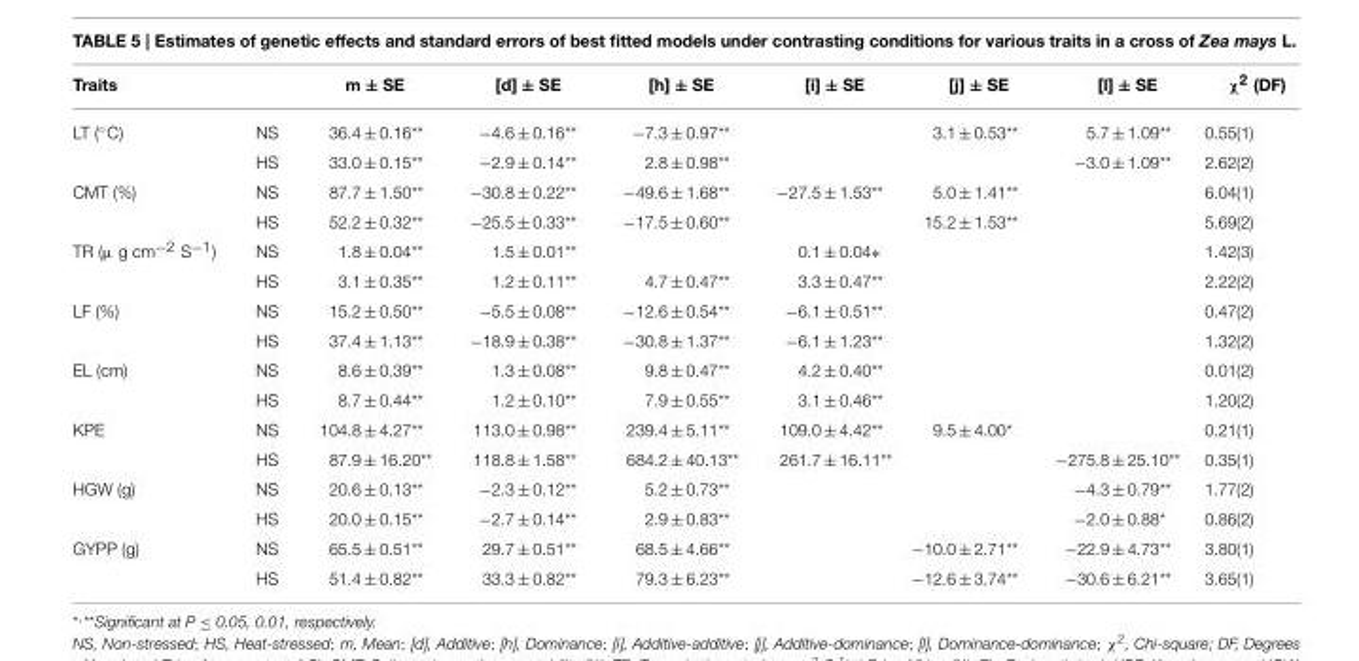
<table><thead><tr><td>Traits</td><td></td><td>m ± SE</td><td>[d] ± SE</td><td>[h] ± SE</td><td>[i] ± SE</td><td>[j] ± SE</td><td>[l] ± SE</td><td>χ<sup>2</sup> (DF)</td></tr></thead><tbody><tr><td rowspan="2">LT (◦C)</td><td>NS</td><td>36.4 ± 0.16**</td><td>−4.6 ± 0.16**</td><td>−7.3 ± 0.97**</td><td></td><td>3.1 ± 0.53**</td><td>5.7 ± 1.09**</td><td>0.55(1)</td></tr><tr><td>HS</td><td>33.0 ± 0.15**</td><td>−2.9 ± 0.14**</td><td>2.8 ± 0.98**</td><td></td><td></td><td>−3.0 ± 1.09**</td><td>2.62(2)</td></tr><tr><td rowspan="2">CMT (%)</td><td>NS</td><td>87.7 ± 1.50**</td><td>−30.8 ± 0.22**</td><td>−49.6 ± 1.68**</td><td>−27.5 ± 1.53**</td><td>5.0 ± 1.41**</td><td></td><td>6.04(1)</td></tr><tr><td>HS</td><td>52.2 ± 0.32**</td><td>−25.5 ± 0.33**</td><td>−17.5 ± 0.60**</td><td></td><td>15.2 ± 1.53**</td><td></td><td>5.69(2)</td></tr><tr><td rowspan="2">TR (µ g cm<sup>−2</sup> S<sup>−1</sup>)</td><td>NS</td><td>1.8 ± 0.04**</td><td>1.5 ± 0.01**</td><td></td><td>0.1 ± 0.04∗</td><td></td><td></td><td>1.42(3)</td></tr><tr><td>HS</td><td>3.1 ± 0.35**</td><td>1.2 ± 0.11**</td><td>4.7 ± 0.47**</td><td>3.3 ± 0.47**</td><td></td><td></td><td>2.22(2)</td></tr><tr><td rowspan="2">LF (%)</td><td>NS</td><td>15.2 ± 0.50**</td><td>−5.5 ± 0.08**</td><td>−12.6 ± 0.54**</td><td>−6.1 ± 0.51**</td><td></td><td></td><td>0.47(2)</td></tr><tr><td>HS</td><td>37.4 ± 1.13**</td><td>−18.9 ± 0.38**</td><td>−30.8 ± 1.37**</td><td>−6.1 ± 1.23**</td><td></td><td></td><td>1.32(2)</td></tr><tr><td rowspan="2">EL (cm)</td><td>NS</td><td>8.6 ± 0.39**</td><td>1.3 ± 0.08**</td><td>9.8 ± 0.47**</td><td>4.2 ± 0.40**</td><td></td><td></td><td>0.01(2)</td></tr><tr><td>HS</td><td>8.7 ± 0.44**</td><td>1.2 ± 0.10**</td><td>7.9 ± 0.55**</td><td>3.1 ± 0.46**</td><td></td><td></td><td>1.20(2)</td></tr><tr><td rowspan="2">KPE</td><td>NS</td><td>104.8 ± 4.27**</td><td>113.0 ± 0.98**</td><td>239.4 ± 5.11**</td><td>109.0 ± 4.42**</td><td>9.5 ± 4.00*</td><td></td><td>0.21(1)</td></tr><tr><td>HS</td><td>87.9 ± 16.20**</td><td>118.8 ± 1.58**</td><td>684.2 ± 40.13**</td><td>261.7 ± 16.11**</td><td></td><td>−275.8 ± 25.10**</td><td>0.35(1)</td></tr><tr><td rowspan="2">HGW (g)</td><td>NS</td><td>20.6 ± 0.13**</td><td>−2.3 ± 0.12**</td><td>5.2 ± 0.73**</td><td></td><td></td><td>−4.3 ± 0.79**</td><td>1.77(2)</td></tr><tr><td>HS</td><td>20.0 ± 0.15**</td><td>−2.7 ± 0.14**</td><td>2.9 ± 0.83**</td><td></td><td></td><td>−2.0 ± 0.88*</td><td>0.86(2)</td></tr><tr><td rowspan="2">GYPP (g)</td><td>NS</td><td>65.5 ± 0.51**</td><td>29.7 ± 0.51**</td><td>68.5 ± 4.66**</td><td></td><td>−10.0 ± 2.71**</td><td>−22.9 ± 4.73**</td><td>3.80(1)</td></tr><tr><td>HS</td><td>51.4 ± 0.82**</td><td>33.3 ± 0.82**</td><td>79.3 ± 6.23**</td><td></td><td>−12.6 ± 3.74**</td><td>−30.6 ± 6.21**</td><td>3.65(1)</td></tr></tbody></table>